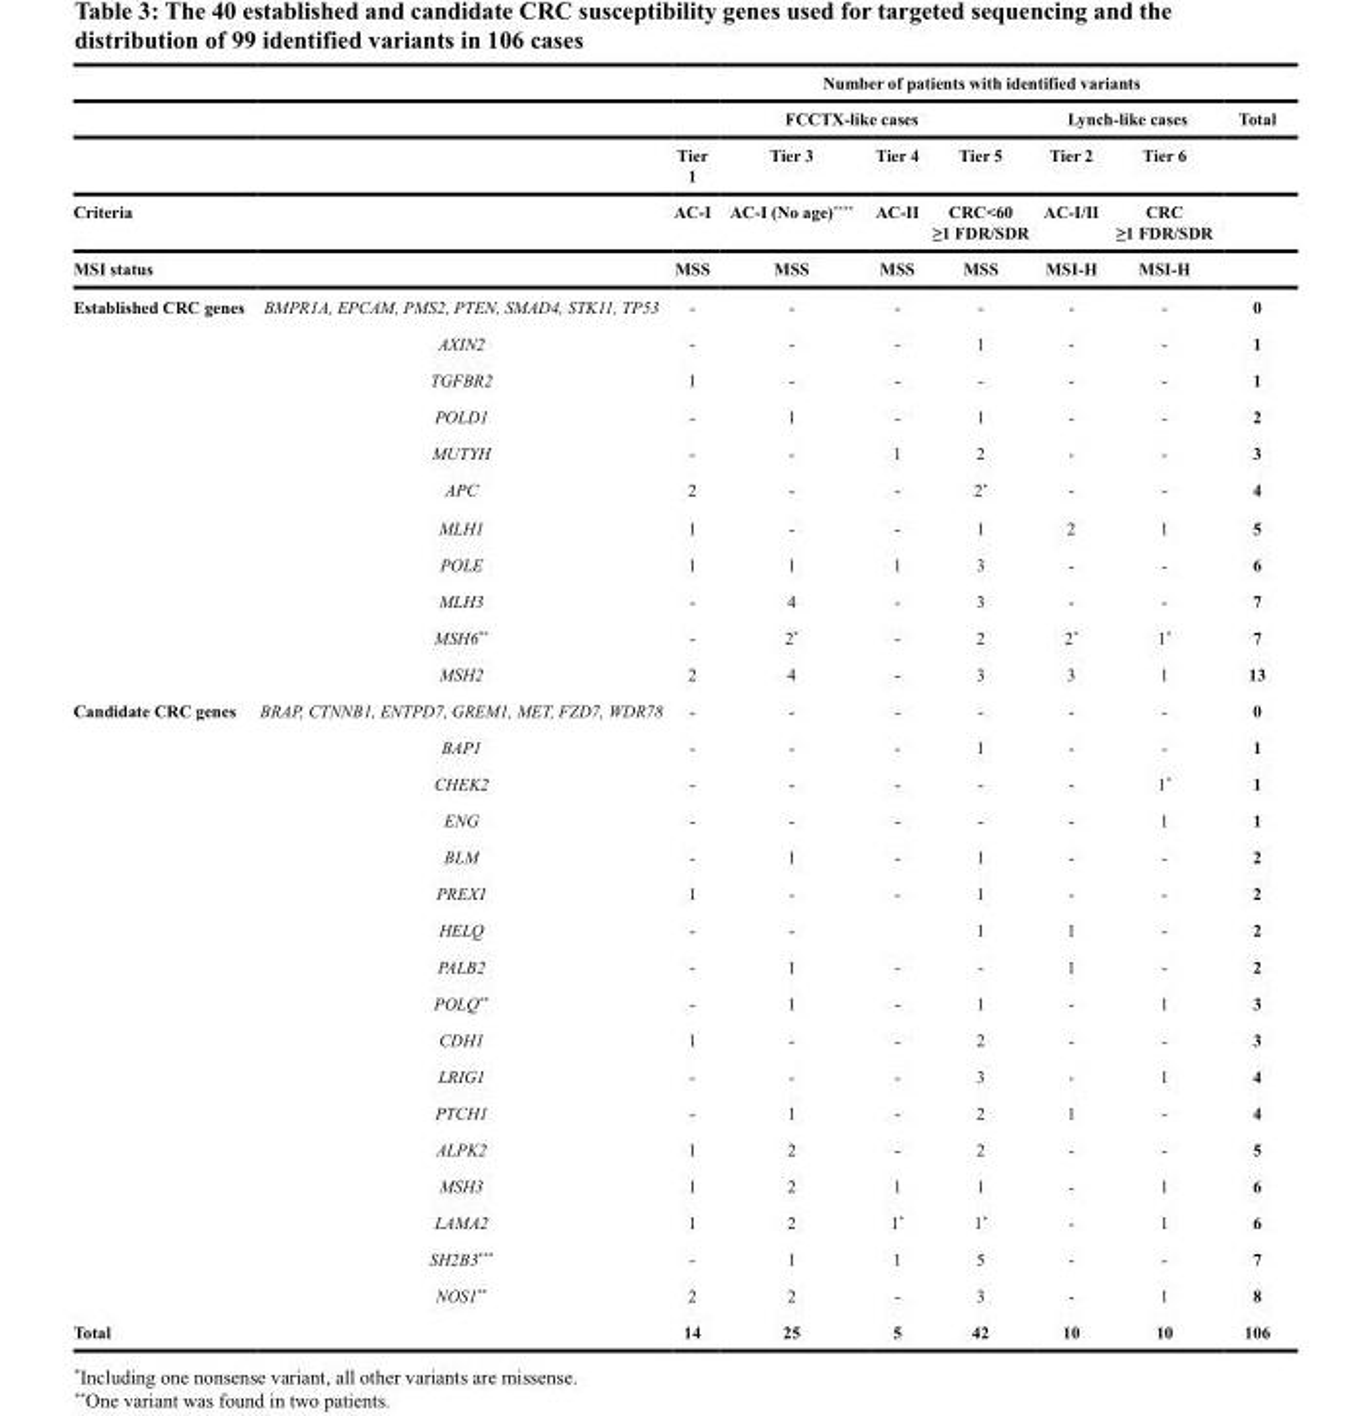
<table><thead><tr><td rowspan="3"></td><td rowspan="3"></td><td colspan="7">Number of patients with identified variants</td></tr><tr><td colspan="4">FCCTX-like cases</td><td colspan="2">Lynch-like cases</td><td rowspan="4">Total</td></tr><tr><td rowspan="3">Tier 1 AC-I MSS</td><td rowspan="3">Tier 3 AC-I (No age)**** MSS</td><td rowspan="3">Tier 4 AC-II MSS</td><td rowspan="3">Tier 5 CRC&lt;60 ≥1 FDR/SDR MSS</td><td rowspan="3">Tier 2 AC-I/II MSI-H</td><td rowspan="3">Tier 6 CRC ≥1 FDR/SDR MSI-H</td></tr><tr><td rowspan="2" colspan="2">Criteria MSI status</td></tr><tr></tr></thead><tbody><tr><td rowspan="11">Established CRC genes</td><td>BMPR1A, EPCAM, PMS2, PTEN, SMAD4, STK11, TP53</td><td>-</td><td>-</td><td>-</td><td>-</td><td>-</td><td>-</td><td>0</td></tr><tr><td>AXIN2</td><td>-</td><td>-</td><td>-</td><td>1</td><td>-</td><td>-</td><td>1</td></tr><tr><td>TGFBR2</td><td>1</td><td>-</td><td>-</td><td>-</td><td>-</td><td>-</td><td>1</td></tr><tr><td>POLD1</td><td>-</td><td>1</td><td>-</td><td>1</td><td>-</td><td>-</td><td>2</td></tr><tr><td>MUTYH</td><td>-</td><td>-</td><td>1</td><td>2</td><td>-</td><td>-</td><td>3</td></tr><tr><td>APC</td><td>2</td><td>-</td><td>-</td><td>2*</td><td>-</td><td>-</td><td>4</td></tr><tr><td>MLH1</td><td>1</td><td>-</td><td>-</td><td>1</td><td>2</td><td>1</td><td>5</td></tr><tr><td>POLE</td><td>1</td><td>1</td><td>1</td><td>3</td><td>-</td><td>-</td><td>6</td></tr><tr><td>MLH3</td><td>-</td><td>4</td><td>-</td><td>3</td><td>-</td><td>-</td><td>7</td></tr><tr><td>MSH6**</td><td>-</td><td>2*</td><td>-</td><td>2</td><td>2*</td><td>1*</td><td>7</td></tr><tr><td>MSH2</td><td>2</td><td>4</td><td>-</td><td>3</td><td>3</td><td>1</td><td>13</td></tr><tr><td rowspan="17">Candidate CRC genes</td><td>BRAP, CTNNB1, ENTPD7, GREM1, MET, FZD7, WDR78</td><td>-</td><td>-</td><td>-</td><td>-</td><td>-</td><td>-</td><td>0</td></tr><tr><td>BAP1</td><td>-</td><td>-</td><td>-</td><td>1</td><td>-</td><td>-</td><td>1</td></tr><tr><td>CHEK2</td><td>-</td><td>-</td><td>-</td><td>-</td><td>-</td><td>1*</td><td>1</td></tr><tr><td>ENG</td><td>-</td><td>-</td><td>-</td><td>-</td><td>-</td><td>1</td><td>1</td></tr><tr><td>BLM</td><td>-</td><td>1</td><td>-</td><td>1</td><td>-</td><td>-</td><td>2</td></tr><tr><td>PREX1</td><td>1</td><td>-</td><td>-</td><td>1</td><td>-</td><td>-</td><td>2</td></tr><tr><td>HELQ</td><td>-</td><td>-</td><td></td><td>1</td><td>1</td><td>-</td><td>2</td></tr><tr><td>PALB2</td><td>-</td><td>1</td><td>-</td><td>-</td><td>1</td><td>-</td><td>2</td></tr><tr><td>POLQ**</td><td>-</td><td>1</td><td>-</td><td>1</td><td>-</td><td>1</td><td>3</td></tr><tr><td>CDH1</td><td>1</td><td>-</td><td>-</td><td>2</td><td>-</td><td>-</td><td>3</td></tr><tr><td>LRIG1</td><td>-</td><td>-</td><td>-</td><td>3</td><td>-</td><td>1</td><td>4</td></tr><tr><td>PTCH1</td><td>-</td><td>1</td><td>-</td><td>2</td><td>1</td><td>-</td><td>4</td></tr><tr><td>ALPK2</td><td>1</td><td>2</td><td>-</td><td>2</td><td>-</td><td>-</td><td>5</td></tr><tr><td>MSH3</td><td>1</td><td>2</td><td>1</td><td>1</td><td>-</td><td>1</td><td>6</td></tr><tr><td>LAMA2</td><td>1</td><td>2</td><td>1*</td><td>1*</td><td>-</td><td>1</td><td>6</td></tr><tr><td>SH2B3***</td><td>-</td><td>1</td><td>1</td><td>5</td><td>-</td><td>-</td><td>7</td></tr><tr><td>NOS1**</td><td>2</td><td>2</td><td>-</td><td>3</td><td>-</td><td>1</td><td>8</td></tr><tr><td colspan="2">Total</td><td>14</td><td>25</td><td>5</td><td>42</td><td>10</td><td>10</td><td>106</td></tr></tbody></table>